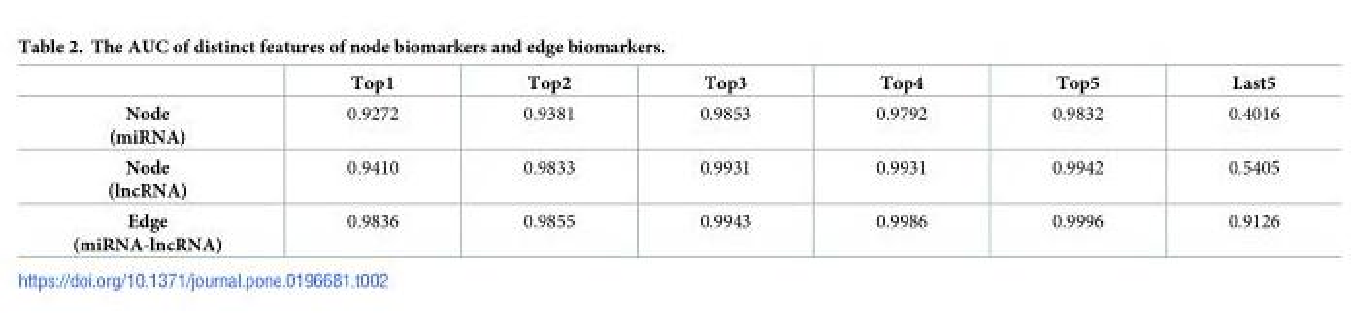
<table><thead><tr><td></td><td>Top1</td><td>Top2</td><td>Top3</td><td>Top4</td><td>Top5</td><td>Last5</td></tr></thead><tbody><tr><td>Node (miRNA)</td><td>0.9272</td><td>0.9381</td><td>0.9853</td><td>0.9792</td><td>0.9832</td><td>0.4016</td></tr><tr><td>Node (lncRNA)</td><td>0.9410</td><td>0.9833</td><td>0.9931</td><td>0.9931</td><td>0.9942</td><td>0.5405</td></tr><tr><td>Edge (miRNA-lncRNA)</td><td>0.9836</td><td>0.9855</td><td>0.9943</td><td>0.9986</td><td>0.9996</td><td>0.9126</td></tr></tbody></table>